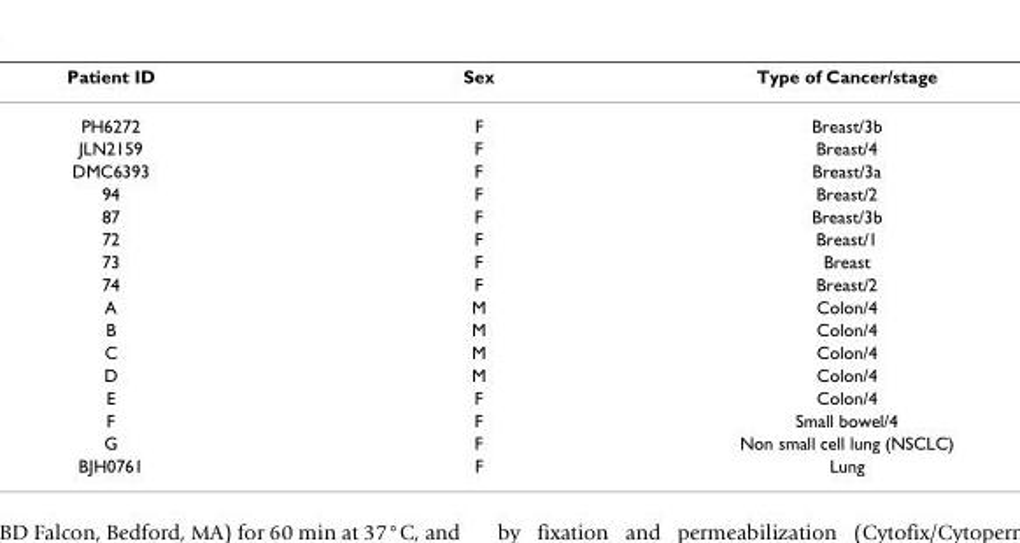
<table><thead><tr><td>Patient ID</td><td>Sex</td><td>Type of Cancer/stage</td></tr></thead><tbody><tr><td>PH6272</td><td>F</td><td>Breast/3b</td></tr><tr><td>JLN2159</td><td>F</td><td>Breast/4</td></tr><tr><td>DMC6393</td><td>F</td><td>Breast/3a</td></tr><tr><td>94</td><td>F</td><td>Breast/2</td></tr><tr><td>87</td><td>F</td><td>Breast/3b</td></tr><tr><td>72</td><td>F</td><td>Breast/1</td></tr><tr><td>73</td><td>F</td><td>Breast</td></tr><tr><td>74</td><td>F</td><td>Breast/2</td></tr><tr><td>A</td><td>M</td><td>Colon/4</td></tr><tr><td>B</td><td>M</td><td>Colon/4</td></tr><tr><td>C</td><td>M</td><td>Colon/4</td></tr><tr><td>D</td><td>M</td><td>Colon/4</td></tr><tr><td>E</td><td>F</td><td>Colon/4</td></tr><tr><td>F</td><td>F</td><td>Small bowel/4</td></tr><tr><td>G</td><td>F</td><td>Non small cell lung (NSCLC)</td></tr><tr><td>BJH0761</td><td>F</td><td>Lung</td></tr></tbody></table>